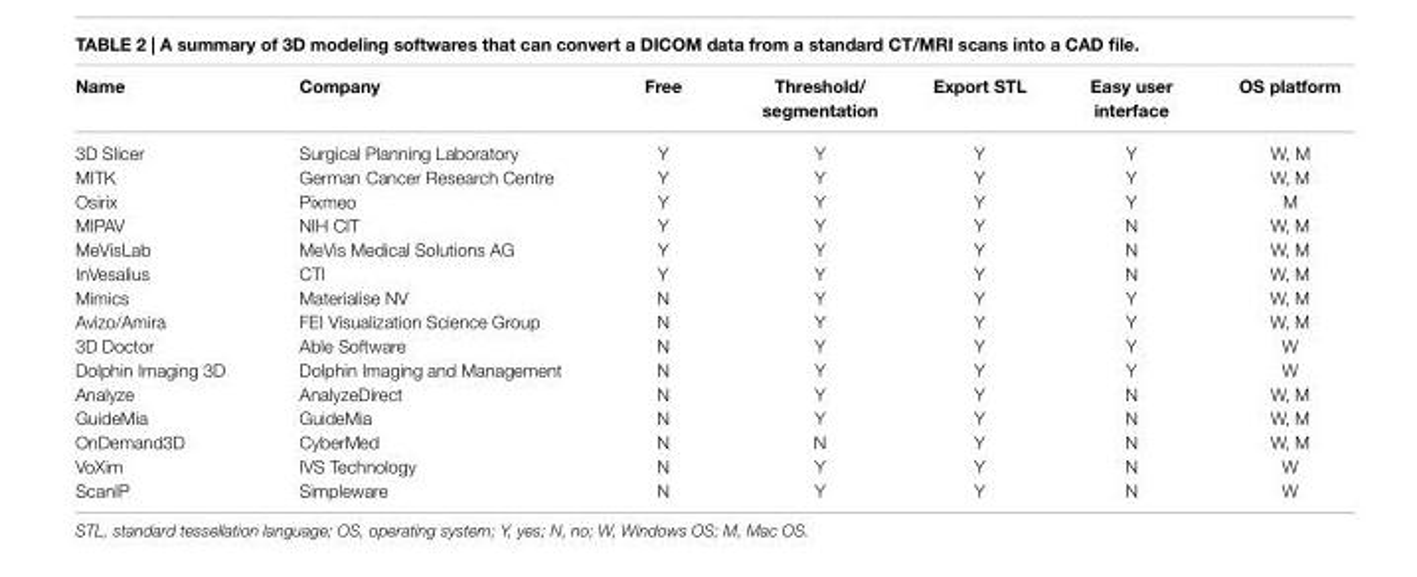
<table><thead><tr><td>Name</td><td>Company</td><td>Free</td><td>Threshold/ segmentation</td><td>export STL</td><td>easy user interface</td><td>OS platform</td></tr></thead><tbody><tr><td>3D Slicer</td><td>Surgical Planning Laboratory</td><td>Y</td><td>Y</td><td>Y</td><td>Y</td><td>W, M</td></tr><tr><td>MITK</td><td>German Cancer Research Centre</td><td>Y</td><td>Y</td><td>Y</td><td>Y</td><td>W, M</td></tr><tr><td>Osirix</td><td>Pixmeo</td><td>Y</td><td>Y</td><td>Y</td><td>Y</td><td>M</td></tr><tr><td>MIPAV</td><td>NIH CIT</td><td>Y</td><td>Y</td><td>Y</td><td>N</td><td>W, M</td></tr><tr><td>MeVisLab</td><td>MeVis Medical Solutions AG</td><td>Y</td><td>Y</td><td>Y</td><td>N</td><td>W, M</td></tr><tr><td>InVesalius</td><td>CTI</td><td>Y</td><td>Y</td><td>Y</td><td>N</td><td>W, M</td></tr><tr><td>Mimics</td><td>Materialise NV</td><td>N</td><td>Y</td><td>Y</td><td>Y</td><td>W, M</td></tr><tr><td>Avizo/Amira</td><td>FEI Visualization Science Group</td><td>N</td><td>Y</td><td>Y</td><td>Y</td><td>W, M</td></tr><tr><td>3D Doctor</td><td>Able Software</td><td>N</td><td>Y</td><td>Y</td><td>Y</td><td>W</td></tr><tr><td>Dolphin Imaging 3D</td><td>Dolphin Imaging and Management</td><td>N</td><td>Y</td><td>Y</td><td>Y</td><td>W</td></tr><tr><td>Analyze</td><td>AnalyzeDirect</td><td>N</td><td>Y</td><td>Y</td><td>N</td><td>W, M</td></tr><tr><td>GuideMia</td><td>GuideMia</td><td>N</td><td>Y</td><td>Y</td><td>N</td><td>W, M</td></tr><tr><td>OnDemand3D</td><td>CyberMed</td><td>N</td><td>N</td><td>Y</td><td>N</td><td>W, M</td></tr><tr><td>VoXim</td><td>IVS Technology</td><td>N</td><td>Y</td><td>Y</td><td>N</td><td>W</td></tr><tr><td>ScanIP</td><td>Simpleware</td><td>N</td><td>Y</td><td>Y</td><td>N</td><td>W</td></tr></tbody></table>